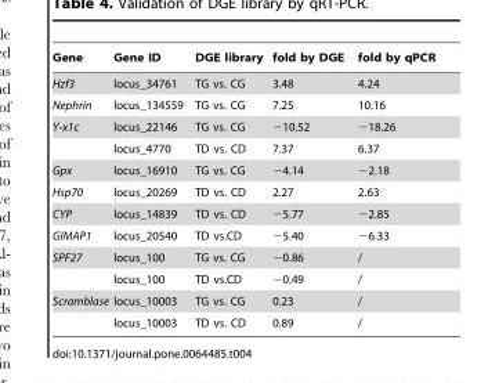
<table><thead><tr><td>Gene</td><td>Gene ID</td><td>DGE library</td><td>fold by DGE</td><td>fold by qPCR</td></tr></thead><tbody><tr><td>Hzf3</td><td>locus_34761</td><td>TG vs. CG</td><td>3.48</td><td>4.24</td></tr><tr><td>Nephrin</td><td>locus_134559</td><td>TG vs. CG</td><td>7.25</td><td>10.16</td></tr><tr><td rowspan="2">Y-x1c</td><td>locus_22146</td><td>TG vs. CG</td><td>−10.52</td><td>−18.26</td></tr><tr><td>locus_4770</td><td>TD vs. CD</td><td>7.37</td><td>6.37</td></tr><tr><td>Gpx</td><td>locus_16910</td><td>TG vs. CG</td><td>−4.14</td><td>−2.18</td></tr><tr><td>Hsp70</td><td>locus_20269</td><td>TD vs. CD</td><td>2.27</td><td>2.63</td></tr><tr><td>CYP</td><td>locus_14839</td><td>TD vs. CD</td><td>−5.77</td><td>−2.85</td></tr><tr><td>GIMAP1</td><td>locus_20540</td><td>TD vs.CD</td><td>−5.40</td><td>−6.33</td></tr><tr><td rowspan="2">SPF27</td><td>locus_100</td><td>TG vs. CG</td><td>−0.86</td><td>/</td></tr><tr><td>locus_100</td><td>TD vs.CD</td><td>−0.49</td><td>/</td></tr><tr><td rowspan="2">Scramblase</td><td>locus_10003</td><td>TG vs. CG</td><td>0.23</td><td>/</td></tr><tr><td>locus_10003</td><td>TD vs. CD</td><td>0.89</td><td>/</td></tr></tbody></table>